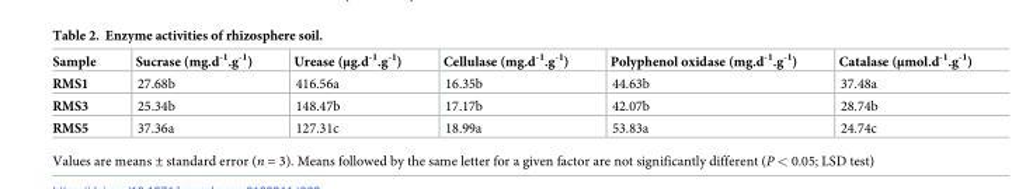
<table><thead><tr><td>Sample</td><td>Sucrase (mg.d<sup>-1</sup>.g<sup>-1</sup>)</td><td>Urease (μg.d<sup>-1</sup>.g<sup>-1</sup>)</td><td>Cellulase (mg.d<sup>-1</sup>.g<sup>-1</sup>)</td><td>Polyphenol oxidase (mg.d<sup>-1</sup>.g<sup>-1</sup>)</td><td>Catalase (μmol.d<sup>-1</sup>.g<sup>-1</sup>)</td></tr></thead><tbody><tr><td>RMS1</td><td>27.68b</td><td>416.56a</td><td>16.35b</td><td>44.63b</td><td>37.48a</td></tr><tr><td>RMS3</td><td>25.34b</td><td>148.47b</td><td>17.17b</td><td>42.07b</td><td>28.74b</td></tr><tr><td>RMS5</td><td>37.36a</td><td>127.31c</td><td>18.99a</td><td>53.83a</td><td>24.74c</td></tr></tbody></table>